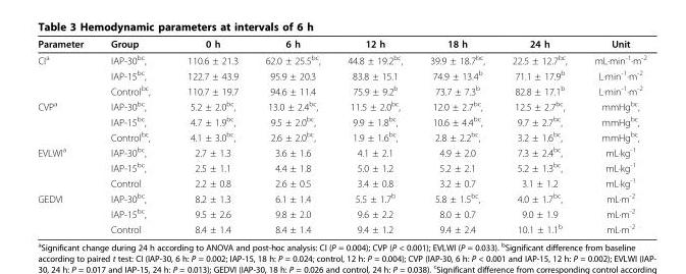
<table><thead><tr><td>Parameter</td><td>Group</td><td>0 h</td><td>6 h</td><td>12 h</td><td>18 h</td><td>24 h</td><td>Unit</td></tr></thead><tbody><tr><td rowspan="3">CI<sup>a</sup></td><td>IAP-30<sup>bc</sup>,</td><td>110.6 ± 21.3</td><td>62.0 ± 25.5<sup>bc</sup>,</td><td>44.8 ± 19.2<sup>bc</sup>,</td><td>39.9 ± 18.7<sup>bc</sup>,</td><td>22.5 ± 12.7<sup>bc</sup>,</td><td>mL·min<sup>-1</sup>·m<sup>-2</sup></td></tr><tr><td>IAP-15<sup>bc</sup>,</td><td>122.7 ± 43.9</td><td>95.9 ± 20.3</td><td>83.8 ± 15.1</td><td>74.9 ± 13.4<sup>b</sup></td><td>71.1 ± 17.9<sup>b</sup></td><td>L·min<sup>-1</sup>·m<sup>-2</sup></td></tr><tr><td>Control<sup>bc</sup>,</td><td>110.7 ± 19.7</td><td>94.6 ± 11.4</td><td>75.9 ± 9.2<sup>b</sup></td><td>73.7 ± 7.3<sup>b</sup></td><td>82.8 ± 17.1<sup>b</sup></td><td>L·min<sup>-1</sup>·m<sup>-2</sup></td></tr><tr><td rowspan="3">CVP<sup>a</sup></td><td>IAP-30<sup>bc</sup>,</td><td>5.2 ± 2.0<sup>bc</sup>,</td><td>13.0 ± 2.4<sup>bc</sup>,</td><td>11.5 ± 2.0<sup>bc</sup>,</td><td>12.0 ± 2.7<sup>bc</sup>,</td><td>12.5 ± 2.7<sup>bc</sup>,</td><td>mmHg<sup>bc</sup>,</td></tr><tr><td>IAP-15<sup>bc</sup>,</td><td>4.7 ± 1.9<sup>bc</sup>,</td><td>9.5 ± 2.0<sup>bc</sup>,</td><td>9.9 ± 1.8<sup>bc</sup>,</td><td>10.6 ± 4.4<sup>bc</sup>,</td><td>9.7 ± 2.7<sup>bc</sup>,</td><td>mmHg<sup>bc</sup>,</td></tr><tr><td>Control<sup>bc</sup>,</td><td>4.1 ± 3.0<sup>bc</sup>,</td><td>2.6 ± 2.0<sup>bc</sup>,</td><td>1.9 ± 1.6<sup>bc</sup>,</td><td>2.8 ± 2.2<sup>bc</sup>,</td><td>3.2 ± 1.6<sup>bc</sup>,</td><td>mmHg<sup>bc</sup>,</td></tr><tr><td rowspan="3">EVLWI<sup>a</sup></td><td>IAP-30<sup>bc</sup>,</td><td>2.7 ± 1.3</td><td>3.6 ± 1.6</td><td>4.1 ± 2.1</td><td>4.9 ± 2.0</td><td>7.3 ± 2.4<sup>bc</sup>,</td><td>mL·kg<sup>-1</sup></td></tr><tr><td>IAP-15<sup>bc</sup>,</td><td>2.5 ± 1.1</td><td>4.4 ± 1.8</td><td>5.0 ± 1.2</td><td>5.2 ± 2.1</td><td>5.2 ± 1.3<sup>bc</sup>,</td><td>mL·kg<sup>-1</sup></td></tr><tr><td>Control</td><td>2.2 ± 0.8</td><td>2.6 ± 0.5</td><td>3.4 ± 0.8</td><td>3.2 ± 0.7</td><td>3.1 ± 1.2</td><td>mL·kg<sup>-1</sup></td></tr><tr><td rowspan="3">GEDVI</td><td>IAP-30<sup>bc</sup>,</td><td>8.2 ± 1.3</td><td>6.1 ± 1.4</td><td>5.5 ± 1.7<sup>b</sup></td><td>5.8 ± 1.5<sup>bc</sup>,</td><td>4.0 ± 1.7<sup>bc</sup>,</td><td>mL·m<sup>-2</sup></td></tr><tr><td>IAP-15<sup>bc</sup>,</td><td>9.5 ± 2.6</td><td>9.8 ± 2.0</td><td>9.6 ± 2.2</td><td>8.0 ± 0.7</td><td>9.0 ± 1.9</td><td>mL·m<sup>-2</sup></td></tr><tr><td>Control</td><td>8.4 ± 1.4</td><td>8.4 ± 1.4</td><td>9.4 ± 1.2</td><td>9.4 ± 2.4</td><td>10.1 ± 1.1<sup>b</sup></td><td>mL·m<sup>-2</sup></td></tr></tbody></table>